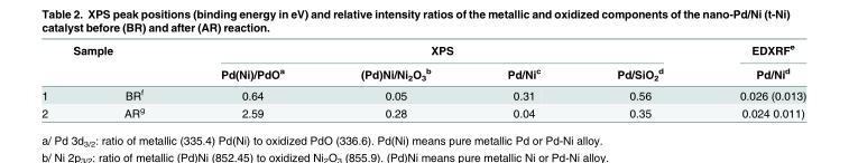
<table><thead><tr><td rowspan="2" colspan="2">Sample</td><td colspan="4">XPS</td><td rowspan="3">EDXRF<sup>e</sup> Pd/Ni<sup>d</sup> 0.026 (0.013)</td></tr><tr><td rowspan="2">Pd(Ni)/PdO<sup>a</sup> 0.64</td><td rowspan="2">(Pd)Ni/Ni<sub>2</sub>O<sub>3</sub> <sup>b</sup> 0.05</td><td rowspan="2">Pd/Ni<sup>c</sup> 0.31</td><td rowspan="2">Pd/SiO<sub>2</sub> <sup>d</sup> 0.56</td></tr><tr><td>1</td><td>BR<sup>f</sup></td></tr></thead><tbody><tr><td>2</td><td>AR<sup>g</sup></td><td>2.59</td><td>0.28</td><td>0.04</td><td>0.35</td><td>0.024 0.011)</td></tr></tbody></table>